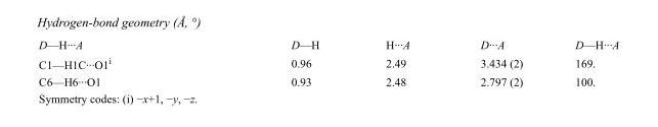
<table><tbody><tr><td>D—H···A</td><td>D—H</td><td>H···A</td><td>D···A</td><td>D—H···A</td></tr><tr><td>C1—H1C···O1<sup>i</sup></td><td>0.96</td><td>2.49</td><td>3.434 (2)</td><td>169.</td></tr><tr><td>C6—H6···O1</td><td>0.93</td><td>2.48</td><td>2.797 (2)</td><td>100.</td></tr></tbody></table>